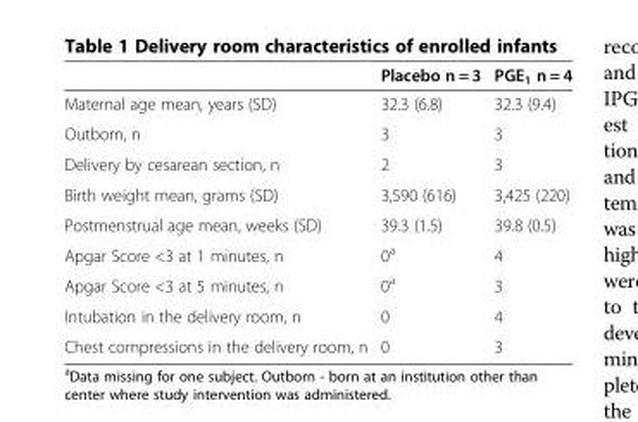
<table><thead><tr><td></td><td>Placebo n = 3</td><td>PGE<sub>1</sub> n = 4</td></tr></thead><tbody><tr><td>Maternal age mean, years (SD)</td><td>32.3 (6.8)</td><td>32.3 (9.4)</td></tr><tr><td>Outborn, n</td><td>3</td><td>3</td></tr><tr><td>Delivery by cesarean section, n</td><td>2</td><td>3</td></tr><tr><td>Birth weight mean, grams (SD)</td><td>3,590 (616)</td><td>3,425 (220)</td></tr><tr><td>Postmenstrual age mean, weeks (SD)</td><td>39.3 (1.5)</td><td>39.8 (0.5)</td></tr><tr><td>Apgar Score &lt;3 at 1 minutes, n</td><td>0<sup>a</sup></td><td>4</td></tr><tr><td>Apgar Score &lt;3 at 5 minutes, n</td><td>0<sup>a</sup></td><td>3</td></tr><tr><td>Intubation in the delivery room, n</td><td>0</td><td>4</td></tr><tr><td>Chest compressions in the delivery room, n</td><td>0</td><td>3</td></tr></tbody></table>